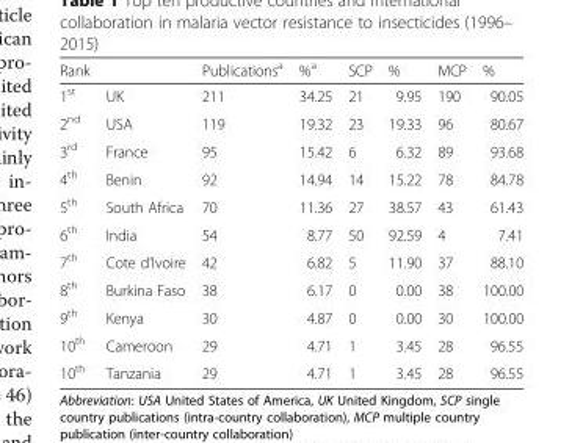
<table><thead><tr><td>Rank</td><td></td><td>Publications<sup>a</sup></td><td>%<sup>a</sup></td><td>SCP</td><td>%</td><td>MCP</td><td>%</td></tr></thead><tbody><tr><td>1<sup>st</sup></td><td>UK</td><td>211</td><td>34.25</td><td>21</td><td>9.95</td><td>190</td><td>90.05</td></tr><tr><td>2<sup>nd</sup></td><td>USA</td><td>119</td><td>19.32</td><td>23</td><td>19.33</td><td>96</td><td>80.67</td></tr><tr><td>3<sup>rd</sup></td><td>France</td><td>95</td><td>15.42</td><td>6</td><td>6.32</td><td>89</td><td>93.68</td></tr><tr><td>4<sup>th</sup></td><td>Benin</td><td>92</td><td>14.94</td><td>14</td><td>15.22</td><td>78</td><td>84.78</td></tr><tr><td>5<sup>th</sup></td><td>South Africa</td><td>70</td><td>11.36</td><td>27</td><td>38.57</td><td>43</td><td>61.43</td></tr><tr><td>6<sup>th</sup></td><td>India</td><td>54</td><td>8.77</td><td>50</td><td>92.59</td><td>4</td><td>7.41</td></tr><tr><td>7<sup>th</sup></td><td>Cote d’Ivoire</td><td>42</td><td>6.82</td><td>5</td><td>11.90</td><td>37</td><td>88.10</td></tr><tr><td>8<sup>th</sup></td><td>Burkina Faso</td><td>38</td><td>6.17</td><td>0</td><td>0.00</td><td>38</td><td>100.00</td></tr><tr><td>9<sup>th</sup></td><td>Kenya</td><td>30</td><td>4.87</td><td>0</td><td>0.00</td><td>30</td><td>100.00</td></tr><tr><td>10<sup>th</sup></td><td>Cameroon</td><td>29</td><td>4.71</td><td>1</td><td>3.45</td><td>28</td><td>96.55</td></tr><tr><td>10<sup>th</sup></td><td>Tanzania</td><td>29</td><td>4.71</td><td>1</td><td>3.45</td><td>28</td><td>96.55</td></tr></tbody></table>